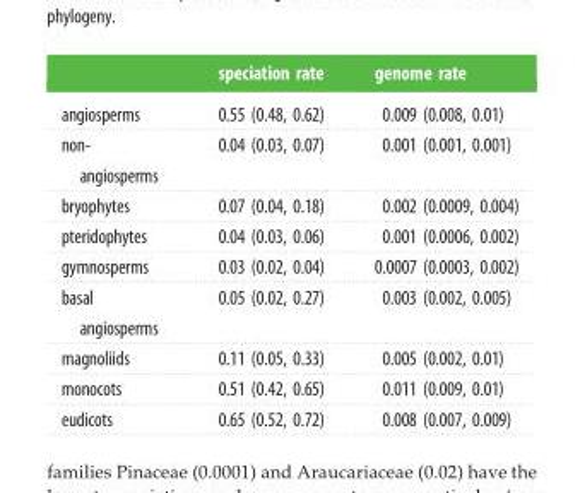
<table><thead><tr><td></td><td>speciation rate</td><td>genome rate</td></tr></thead><tbody><tr><td>angiosperms</td><td>0.55 (0.48, 0.62)</td><td>0.009 (0.008, 0.01)</td></tr><tr><td>non- angiosperms</td><td>0.04 (0.03, 0.07)</td><td>0.001 (0.001, 0.001)</td></tr><tr><td>bryophytes</td><td>0.07 (0.04, 0.18)</td><td>0.002 (0.0009, 0.004)</td></tr><tr><td>pteridophytes</td><td>0.04 (0.03, 0.06)</td><td>0.001 (0.0006, 0.002)</td></tr><tr><td>gymnosperms</td><td>0.03 (0.02, 0.04)</td><td>0.0007 (0.0003, 0.002)</td></tr><tr><td>basal angiosperms</td><td>0.05 (0.02, 0.27)</td><td>0.003 (0.002, 0.005)</td></tr><tr><td>magnoliids</td><td>0.11 (0.05, 0.33)</td><td>0.005 (0.002, 0.01)</td></tr><tr><td>monocots</td><td>0.51 (0.42, 0.65)</td><td>0.011 (0.009, 0.01)</td></tr><tr><td>eudicots</td><td>0.65 (0.52, 0.72)</td><td>0.008 (0.007, 0.009)</td></tr></tbody></table>